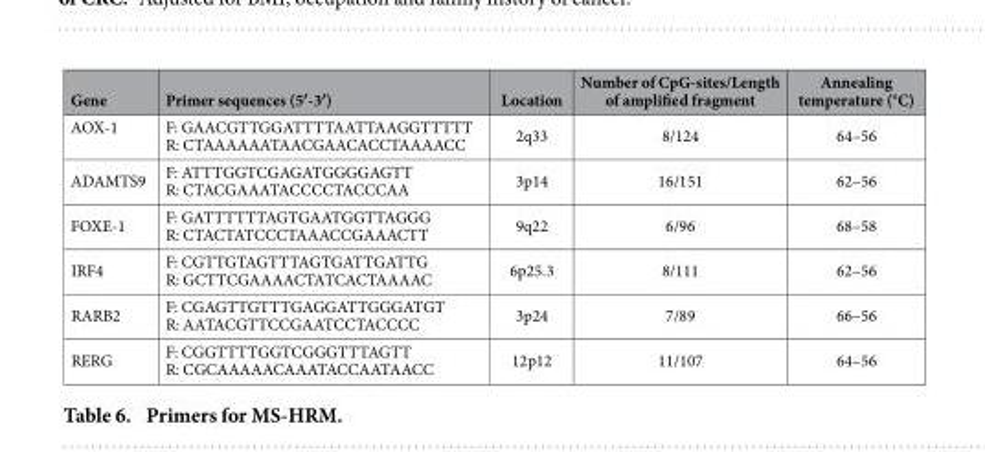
<table><thead><tr><td>Gene</td><td>Primer sequences (5′-3′)</td><td>Location</td><td>Number of CpG-sites/Length of amplified fragment</td><td>Annealing temperature (°C)</td></tr></thead><tbody><tr><td>AOX-1</td><td>F: GAACGTTGGATTTTAATTAAGGTTTTT R: CTAAAAAATAACGAACACCTAAAACC</td><td>2q33</td><td>8/124</td><td>64–56</td></tr><tr><td>ADAMTS9</td><td>F: ATTTGGTCGAGATGGGGAGTT R: CTACGAAATACCCCTACCCAA</td><td>3p14</td><td>16/151</td><td>62–56</td></tr><tr><td>FOXE-1</td><td>F: GATTTTTTAGTGAATGGTTAGGG R: CTACTATCCCTAAACCGAAACTT</td><td>9q22</td><td>6/96</td><td>68–58</td></tr><tr><td>IRF4</td><td>F: CGTTGTAGTTTAGTGATTGATTG R: GCTTCGAAAACTATCACTAAAAC</td><td>6p25.3</td><td>8/111</td><td>62–56</td></tr><tr><td>RARB2</td><td>F: CGAGTTGTTTGAGGATTGGGATGT R: AATACGTTCCGAATCCTACCCC</td><td>3p24</td><td>7/89</td><td>66–56</td></tr><tr><td>RERG</td><td>F: CGGTTTTGGTCGGGTTTAGTT R: CGCAAAAACAAATACCAATAACC</td><td>12p12</td><td>11/107</td><td>64–56</td></tr></tbody></table>